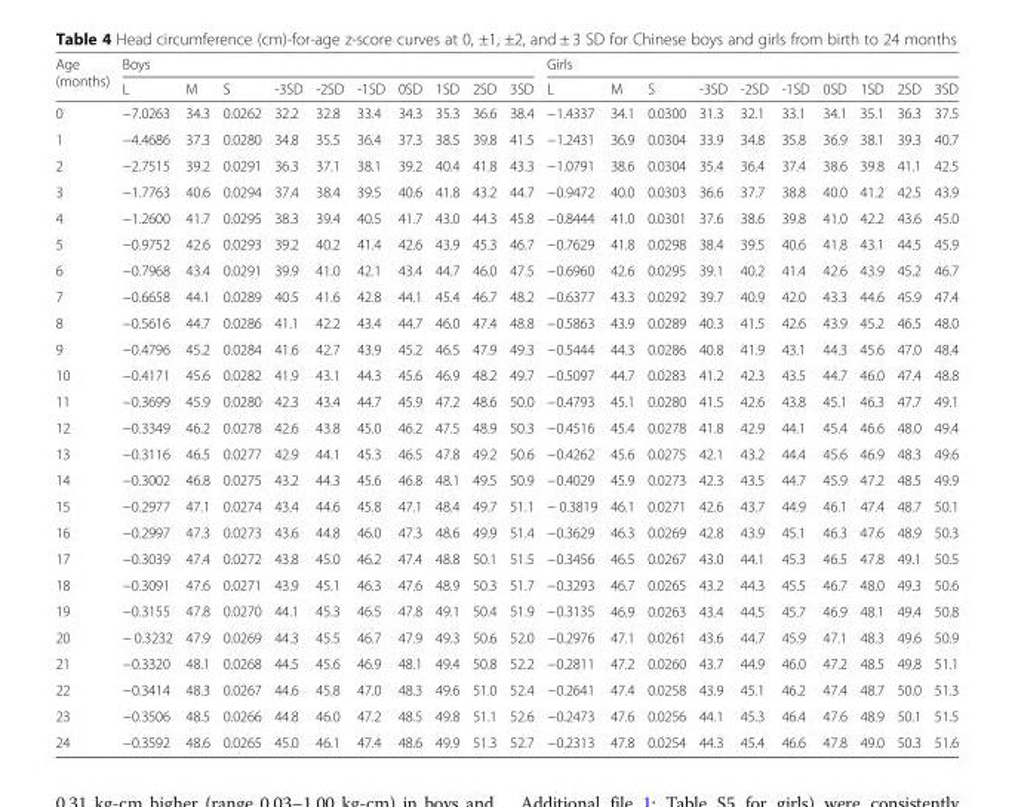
<table><thead><tr><td rowspan="2">Age (months)</td><td colspan="10">Boys</td><td colspan="10">Girls</td></tr><tr><td>L</td><td>M</td><td>S</td><td>-3SD</td><td>-2SD</td><td>-1SD</td><td>0SD</td><td>1SD</td><td>2SD</td><td>3SD</td><td>L</td><td>M</td><td>S</td><td>-3SD</td><td>-2SD</td><td>-1SD</td><td>0SD</td><td>1SD</td><td>2SD</td><td>3SD</td></tr></thead><tbody><tr><td>0</td><td>−7.0263</td><td>34.3</td><td>0.0262</td><td>32.2</td><td>32.8</td><td>33.4</td><td>34.3</td><td>35.3</td><td>36.6</td><td>38.4</td><td>−1.4337</td><td>34.1</td><td>0.0300</td><td>31.3</td><td>32.1</td><td>33.1</td><td>34.1</td><td>35.1</td><td>36.3</td><td>37.5</td></tr><tr><td>1</td><td>−4.4686</td><td>37.3</td><td>0.0280</td><td>34.8</td><td>35.5</td><td>36.4</td><td>37.3</td><td>38.5</td><td>39.8</td><td>41.5</td><td>−1.2431</td><td>36.9</td><td>0.0304</td><td>33.9</td><td>34.8</td><td>35.8</td><td>36.9</td><td>38.1</td><td>39.3</td><td>40.7</td></tr><tr><td>2</td><td>−2.7515</td><td>39.2</td><td>0.0291</td><td>36.3</td><td>37.1</td><td>38.1</td><td>39.2</td><td>40.4</td><td>41.8</td><td>43.3</td><td>−1.0791</td><td>38.6</td><td>0.0304</td><td>35.4</td><td>36.4</td><td>37.4</td><td>38.6</td><td>39.8</td><td>41.1</td><td>42.5</td></tr><tr><td>3</td><td>−1.7763</td><td>40.6</td><td>0.0294</td><td>37.4</td><td>38.4</td><td>39.5</td><td>40.6</td><td>41.8</td><td>43.2</td><td>44.7</td><td>−0.9472</td><td>40.0</td><td>0.0303</td><td>36.6</td><td>37.7</td><td>38.8</td><td>40.0</td><td>41.2</td><td>42.5</td><td>43.9</td></tr><tr><td>4</td><td>−1.2600</td><td>41.7</td><td>0.0295</td><td>38.3</td><td>39.4</td><td>40.5</td><td>41.7</td><td>43.0</td><td>44.3</td><td>45.8</td><td>−0.8444</td><td>41.0</td><td>0.0301</td><td>37.6</td><td>38.6</td><td>39.8</td><td>41.0</td><td>42.2</td><td>43.6</td><td>45.0</td></tr><tr><td>5</td><td>−0.9752</td><td>42.6</td><td>0.0293</td><td>39.2</td><td>40.2</td><td>41.4</td><td>42.6</td><td>43.9</td><td>45.3</td><td>46.7</td><td>−0.7629</td><td>41.8</td><td>0.0298</td><td>38.4</td><td>39.5</td><td>40.6</td><td>41.8</td><td>43.1</td><td>44.5</td><td>45.9</td></tr><tr><td>6</td><td>−0.7968</td><td>43.4</td><td>0.0291</td><td>39.9</td><td>41.0</td><td>42.1</td><td>43.4</td><td>44.7</td><td>46.0</td><td>47.5</td><td>−0.6960</td><td>42.6</td><td>0.0295</td><td>39.1</td><td>40.2</td><td>41.4</td><td>42.6</td><td>43.9</td><td>45.2</td><td>46.7</td></tr><tr><td>7</td><td>−0.6658</td><td>44.1</td><td>0.0289</td><td>40.5</td><td>41.6</td><td>42.8</td><td>44.1</td><td>45.4</td><td>46.7</td><td>48.2</td><td>−0.6377</td><td>43.3</td><td>0.0292</td><td>39.7</td><td>40.9</td><td>42.0</td><td>43.3</td><td>44.6</td><td>45.9</td><td>47.4</td></tr><tr><td>8</td><td>−0.5616</td><td>44.7</td><td>0.0286</td><td>41.1</td><td>42.2</td><td>43.4</td><td>44.7</td><td>46.0</td><td>47.4</td><td>48.8</td><td>−0.5863</td><td>43.9</td><td>0.0289</td><td>40.3</td><td>41.5</td><td>42.6</td><td>43.9</td><td>45.2</td><td>46.5</td><td>48.0</td></tr><tr><td>9</td><td>−0.4796</td><td>45.2</td><td>0.0284</td><td>41.6</td><td>42.7</td><td>43.9</td><td>45.2</td><td>46.5</td><td>47.9</td><td>49.3</td><td>−0.5444</td><td>44.3</td><td>0.0286</td><td>40.8</td><td>41.9</td><td>43.1</td><td>44.3</td><td>45.6</td><td>47.0</td><td>48.4</td></tr><tr><td>10</td><td>−0.4171</td><td>45.6</td><td>0.0282</td><td>41.9</td><td>43.1</td><td>44.3</td><td>45.6</td><td>46.9</td><td>48.2</td><td>49.7</td><td>−0.5097</td><td>44.7</td><td>0.0283</td><td>41.2</td><td>42.3</td><td>43.5</td><td>44.7</td><td>46.0</td><td>47.4</td><td>48.8</td></tr><tr><td>11</td><td>−0.3699</td><td>45.9</td><td>0.0280</td><td>42.3</td><td>43.4</td><td>44.7</td><td>45.9</td><td>47.2</td><td>48.6</td><td>50.0</td><td>−0.4793</td><td>45.1</td><td>0.0280</td><td>41.5</td><td>42.6</td><td>43.8</td><td>45.1</td><td>46.3</td><td>47.7</td><td>49.1</td></tr><tr><td>12</td><td>−0.3349</td><td>46.2</td><td>0.0278</td><td>42.6</td><td>43.8</td><td>45.0</td><td>46.2</td><td>47.5</td><td>48.9</td><td>50.3</td><td>−0.4516</td><td>45.4</td><td>0.0278</td><td>41.8</td><td>42.9</td><td>44.1</td><td>45.4</td><td>46.6</td><td>48.0</td><td>49.4</td></tr><tr><td>13</td><td>−0.3116</td><td>46.5</td><td>0.0277</td><td>42.9</td><td>44.1</td><td>45.3</td><td>46.5</td><td>47.8</td><td>49.2</td><td>50.6</td><td>−0.4262</td><td>45.6</td><td>0.0275</td><td>42.1</td><td>43.2</td><td>44.4</td><td>45.6</td><td>46.9</td><td>48.3</td><td>49.6</td></tr><tr><td>14</td><td>−0.3002</td><td>46.8</td><td>0.0275</td><td>43.2</td><td>44.3</td><td>45.6</td><td>46.8</td><td>48.1</td><td>49.5</td><td>50.9</td><td>−0.4029</td><td>45.9</td><td>0.0273</td><td>42.3</td><td>43.5</td><td>44.7</td><td>45.9</td><td>47.2</td><td>48.5</td><td>49.9</td></tr><tr><td>15</td><td>−0.2977</td><td>47.1</td><td>0.0274</td><td>43.4</td><td>44.6</td><td>45.8</td><td>47.1</td><td>48.4</td><td>49.7</td><td>51.1</td><td>− 0.3819</td><td>46.1</td><td>0.0271</td><td>42.6</td><td>43.7</td><td>44.9</td><td>46.1</td><td>47.4</td><td>48.7</td><td>50.1</td></tr><tr><td>16</td><td>−0.2997</td><td>47.3</td><td>0.0273</td><td>43.6</td><td>44.8</td><td>46.0</td><td>47.3</td><td>48.6</td><td>49.9</td><td>51.4</td><td>−0.3629</td><td>46.3</td><td>0.0269</td><td>42.8</td><td>43.9</td><td>45.1</td><td>46.3</td><td>47.6</td><td>48.9</td><td>50.3</td></tr><tr><td>17</td><td>−0.3039</td><td>47.4</td><td>0.0272</td><td>43.8</td><td>45.0</td><td>46.2</td><td>47.4</td><td>48.8</td><td>50.1</td><td>51.5</td><td>−0.3456</td><td>46.5</td><td>0.0267</td><td>43.0</td><td>44.1</td><td>45.3</td><td>46.5</td><td>47.8</td><td>49.1</td><td>50.5</td></tr><tr><td>18</td><td>−0.3091</td><td>47.6</td><td>0.0271</td><td>43.9</td><td>45.1</td><td>46.3</td><td>47.6</td><td>48.9</td><td>50.3</td><td>51.7</td><td>−0.3293</td><td>46.7</td><td>0.0265</td><td>43.2</td><td>44.3</td><td>45.5</td><td>46.7</td><td>48.0</td><td>49.3</td><td>50.6</td></tr><tr><td>19</td><td>−0.3155</td><td>47.8</td><td>0.0270</td><td>44.1</td><td>45.3</td><td>46.5</td><td>47.8</td><td>49.1</td><td>50.4</td><td>51.9</td><td>−0.3135</td><td>46.9</td><td>0.0263</td><td>43.4</td><td>44.5</td><td>45.7</td><td>46.9</td><td>48.1</td><td>49.4</td><td>50.8</td></tr><tr><td>20</td><td>− 0.3232</td><td>47.9</td><td>0.0269</td><td>44.3</td><td>45.5</td><td>46.7</td><td>47.9</td><td>49.3</td><td>50.6</td><td>52.0</td><td>−0.2976</td><td>47.1</td><td>0.0261</td><td>43.6</td><td>44.7</td><td>45.9</td><td>47.1</td><td>48.3</td><td>49.6</td><td>50.9</td></tr><tr><td>21</td><td>−0.3320</td><td>48.1</td><td>0.0268</td><td>44.5</td><td>45.6</td><td>46.9</td><td>48.1</td><td>49.4</td><td>50.8</td><td>52.2</td><td>−0.2811</td><td>47.2</td><td>0.0260</td><td>43.7</td><td>44.9</td><td>46.0</td><td>47.2</td><td>48.5</td><td>49.8</td><td>51.1</td></tr><tr><td>22</td><td>−0.3414</td><td>48.3</td><td>0.0267</td><td>44.6</td><td>45.8</td><td>47.0</td><td>48.3</td><td>49.6</td><td>51.0</td><td>52.4</td><td>−0.2641</td><td>47.4</td><td>0.0258</td><td>43.9</td><td>45.1</td><td>46.2</td><td>47.4</td><td>48.7</td><td>50.0</td><td>51.3</td></tr><tr><td>23</td><td>−0.3506</td><td>48.5</td><td>0.0266</td><td>44.8</td><td>46.0</td><td>47.2</td><td>48.5</td><td>49.8</td><td>51.1</td><td>52.6</td><td>−0.2473</td><td>47.6</td><td>0.0256</td><td>44.1</td><td>45.3</td><td>46.4</td><td>47.6</td><td>48.9</td><td>50.1</td><td>51.5</td></tr><tr><td>24</td><td>−0.3592</td><td>48.6</td><td>0.0265</td><td>45.0</td><td>46.1</td><td>47.4</td><td>48.6</td><td>49.9</td><td>51.3</td><td>52.7</td><td>−0.2313</td><td>47.8</td><td>0.0254</td><td>44.3</td><td>45.4</td><td>46.6</td><td>47.8</td><td>49.0</td><td>50.3</td><td>51.6</td></tr></tbody></table>